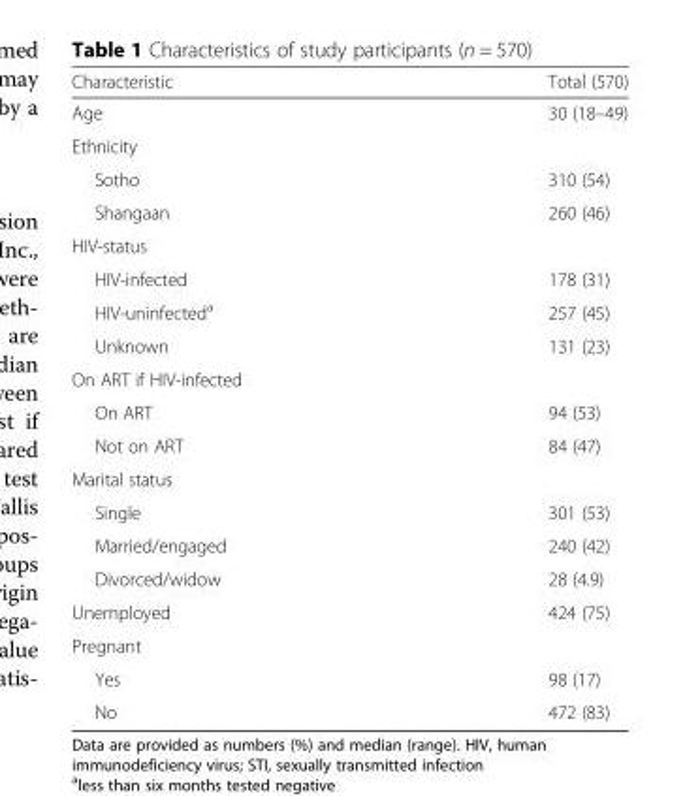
<table><thead><tr><td>Characteristic</td><td>Total (570)</td></tr></thead><tbody><tr><td>Age</td><td>30 (18–49)</td></tr><tr><td colspan="2">Ethnicity</td></tr><tr><td>Sotho</td><td>310 (54)</td></tr><tr><td>Shangaan</td><td>260 (46)</td></tr><tr><td colspan="2">HIV-status</td></tr><tr><td>HIV-infected</td><td>178 (31)</td></tr><tr><td>HIV-uninfected<sup>a</sup></td><td>257 (45)</td></tr><tr><td>Unknown</td><td>131 (23)</td></tr><tr><td colspan="2">On ART if HIV-infected</td></tr><tr><td>On ART</td><td>94 (53)</td></tr><tr><td>Not on ART</td><td>84 (47)</td></tr><tr><td colspan="2">Marital status</td></tr><tr><td>Single</td><td>301 (53)</td></tr><tr><td>Married/engaged</td><td>240 (42)</td></tr><tr><td>Divorced/widow</td><td>28 (4.9)</td></tr><tr><td>Unemployed</td><td>424 (75)</td></tr><tr><td colspan="2">Pregnant</td></tr><tr><td>Yes</td><td>98 (17)</td></tr><tr><td>No</td><td>472 (83)</td></tr></tbody></table>